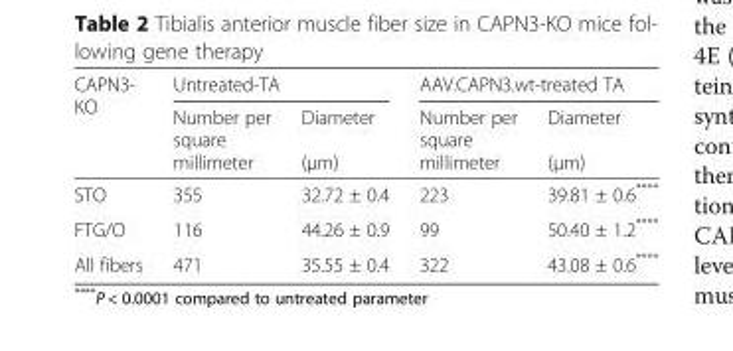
<table><thead><tr><td rowspan="2">CAPN3- KO</td><td colspan="2">Untreated-TA</td><td colspan="2">AAV.CAPN3.wt-treated TA</td></tr><tr><td>Number per square millimeter</td><td>Diameter (μm)</td><td>Number per square millimeter</td><td>Diameter (μm)</td></tr></thead><tbody><tr><td>STO</td><td>355</td><td>32.72 ± 0.4</td><td>223</td><td>39.81 ± 0.6****</td></tr><tr><td>FTG/O</td><td>116</td><td>44.26 ± 0.9</td><td>99</td><td>50.40 ± 1.2****</td></tr><tr><td>All fibers</td><td>471</td><td>35.55 ± 0.4</td><td>322</td><td>43.08 ± 0.6****</td></tr></tbody></table>